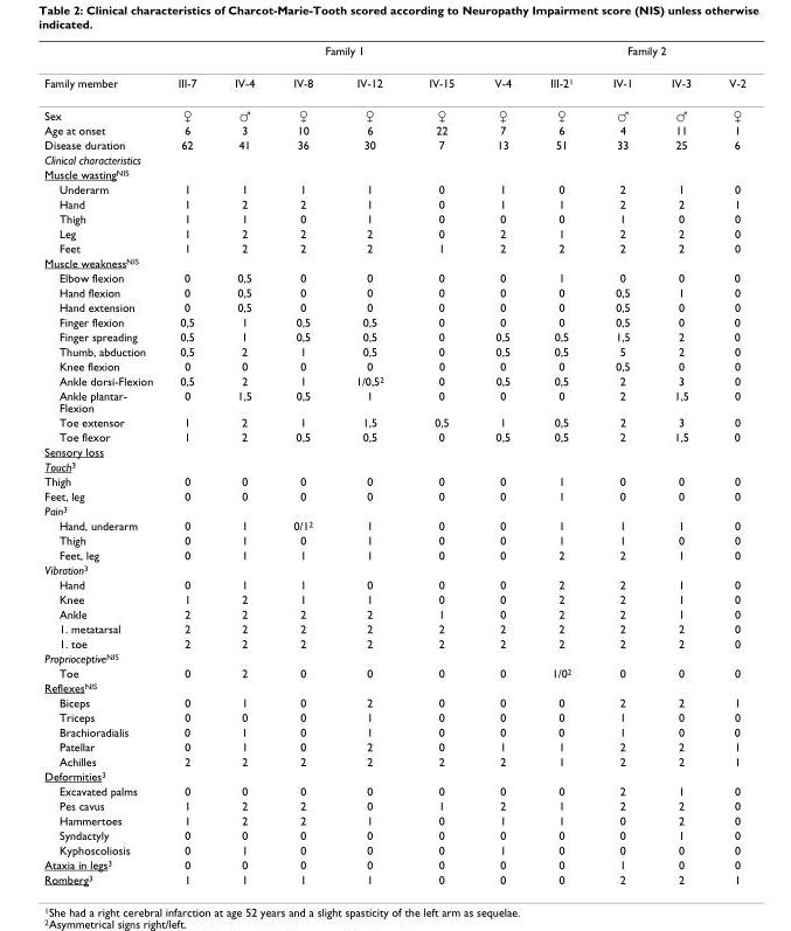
<table><thead><tr><td rowspan="2">Family member</td><td colspan="6">Family 1</td><td colspan="4">Family 2</td></tr><tr><td>III-7</td><td>IV-4</td><td>IV-8</td><td>IV-12</td><td>IV-15</td><td>V-4</td><td>III-21</td><td>IV-1</td><td>IV-3</td><td>V-2</td></tr></thead><tbody><tr><td>Sex</td><td>♀</td><td>♂</td><td>♀</td><td>♀</td><td>♀</td><td>♀</td><td>♀</td><td>♂</td><td>♂</td><td>♀</td></tr><tr><td>Age at onset</td><td>6</td><td>3</td><td>10</td><td>6</td><td>22</td><td>7</td><td>6</td><td>4</td><td>11</td><td>1</td></tr><tr><td>Disease duration</td><td>62</td><td>41</td><td>36</td><td>30</td><td>7</td><td>13</td><td>51</td><td>33</td><td>25</td><td>6</td></tr><tr><td colspan="11">Clinical characteristics</td></tr><tr><td colspan="11">Muscle wasting<sup>NIS</sup></td></tr><tr><td>Underarm</td><td>1</td><td>1</td><td>1</td><td>1</td><td>0</td><td>1</td><td>0</td><td>2</td><td>1</td><td>0</td></tr><tr><td>Hand</td><td>1</td><td>2</td><td>2</td><td>1</td><td>0</td><td>1</td><td>1</td><td>2</td><td>2</td><td>1</td></tr><tr><td>Thigh</td><td>1</td><td>1</td><td>0</td><td>1</td><td>0</td><td>0</td><td>0</td><td>1</td><td>0</td><td>0</td></tr><tr><td>Leg</td><td>1</td><td>2</td><td>2</td><td>2</td><td>0</td><td>2</td><td>1</td><td>2</td><td>2</td><td>0</td></tr><tr><td>Feet</td><td>1</td><td>2</td><td>2</td><td>2</td><td>1</td><td>2</td><td>2</td><td>2</td><td>2</td><td>0</td></tr><tr><td colspan="11">Muscle weakness<sup>NIS</sup></td></tr><tr><td>Elbow flexion</td><td>0</td><td>0,5</td><td>0</td><td>0</td><td>0</td><td>0</td><td>1</td><td>0</td><td>0</td><td>0</td></tr><tr><td>Hand flexion</td><td>0</td><td>0,5</td><td>0</td><td>0</td><td>0</td><td>0</td><td>0</td><td>0,5</td><td>1</td><td>0</td></tr><tr><td>Hand extension</td><td>0</td><td>0,5</td><td>0</td><td>0</td><td>0</td><td>0</td><td>0</td><td>0,5</td><td>0</td><td>0</td></tr><tr><td>Finger flexion</td><td>0,5</td><td>1</td><td>0,5</td><td>0,5</td><td>0</td><td>0</td><td>0</td><td>0,5</td><td>0</td><td>0</td></tr><tr><td>Finger spreading</td><td>0,5</td><td>1</td><td>0,5</td><td>0,5</td><td>0</td><td>0,5</td><td>0,5</td><td>1,5</td><td>2</td><td>0</td></tr><tr><td>Thumb, abduction</td><td>0,5</td><td>2</td><td>1</td><td>0,5</td><td>0</td><td>0,5</td><td>0,5</td><td>5</td><td>2</td><td>0</td></tr><tr><td>Knee flexion</td><td>0</td><td>0</td><td>0</td><td>0</td><td>0</td><td>0</td><td>0</td><td>0,5</td><td>0</td><td>0</td></tr><tr><td>Ankle dorsi-Flexion</td><td>0,5</td><td>2</td><td>1</td><td>1/0,5<sup>2</sup></td><td>0</td><td>0,5</td><td>0,5</td><td>2</td><td>3</td><td>0</td></tr><tr><td>Ankle plantar- Flexion</td><td>0</td><td>1,5</td><td>0,5</td><td>1</td><td>0</td><td>0</td><td>0</td><td>2</td><td>1,5</td><td>0</td></tr><tr><td>Toe extensor</td><td>1</td><td>2</td><td>1</td><td>1,5</td><td>0,5</td><td>1</td><td>0,5</td><td>2</td><td>3</td><td>0</td></tr><tr><td>Toe flexor</td><td>1</td><td>2</td><td>0,5</td><td>0,5</td><td>0</td><td>0,5</td><td>0,5</td><td>2</td><td>1,5</td><td>0</td></tr><tr><td colspan="11">Sensory loss</td></tr><tr><td colspan="11">Touch<sup>3</sup></td></tr><tr><td>Thigh</td><td>0</td><td>0</td><td>0</td><td>0</td><td>0</td><td>0</td><td>1</td><td>0</td><td>0</td><td>0</td></tr><tr><td>Feet, leg</td><td>0</td><td>0</td><td>0</td><td>0</td><td>0</td><td>0</td><td>1</td><td>0</td><td>0</td><td>0</td></tr><tr><td colspan="11">Pain<sup>3</sup></td></tr><tr><td>Hand, underarm</td><td>0</td><td>1</td><td>0/1<sup>2</sup></td><td>1</td><td>0</td><td>0</td><td>1</td><td>1</td><td>1</td><td>0</td></tr><tr><td>Thigh</td><td>0</td><td>1</td><td>0</td><td>1</td><td>0</td><td>0</td><td>1</td><td>1</td><td>0</td><td>0</td></tr><tr><td>Feet, leg</td><td>0</td><td>1</td><td>1</td><td>1</td><td>0</td><td>0</td><td>2</td><td>2</td><td>1</td><td>0</td></tr><tr><td colspan="11">Vibration<sup>3</sup></td></tr><tr><td>Hand</td><td>0</td><td>1</td><td>1</td><td>0</td><td>0</td><td>0</td><td>2</td><td>2</td><td>1</td><td>0</td></tr><tr><td>Knee</td><td>1</td><td>2</td><td>1</td><td>1</td><td>0</td><td>0</td><td>2</td><td>2</td><td>1</td><td>0</td></tr><tr><td>Ankle</td><td>2</td><td>2</td><td>2</td><td>2</td><td>1</td><td>0</td><td>2</td><td>2</td><td>1</td><td>0</td></tr><tr><td>1. metatarsal</td><td>2</td><td>2</td><td>2</td><td>2</td><td>2</td><td>2</td><td>2</td><td>2</td><td>2</td><td>0</td></tr><tr><td>1. toe</td><td>2</td><td>2</td><td>2</td><td>2</td><td>2</td><td>2</td><td>2</td><td>2</td><td>2</td><td>0</td></tr><tr><td colspan="11">Proprioceptive<sup>NIS</sup></td></tr><tr><td>Toe</td><td>0</td><td>2</td><td>0</td><td>0</td><td>0</td><td>0</td><td>1/0<sup>2</sup></td><td>0</td><td>0</td><td>0</td></tr><tr><td colspan="11">Reflexes<sup>NIS</sup></td></tr><tr><td>Biceps</td><td>0</td><td>1</td><td>0</td><td>2</td><td>0</td><td>0</td><td>0</td><td>2</td><td>2</td><td>1</td></tr><tr><td>Triceps</td><td>0</td><td>0</td><td>0</td><td>1</td><td>0</td><td>0</td><td>0</td><td>1</td><td>0</td><td>0</td></tr><tr><td>Brachioradialis</td><td>0</td><td>1</td><td>0</td><td>1</td><td>0</td><td>0</td><td>0</td><td>1</td><td>0</td><td>0</td></tr><tr><td>Patellar</td><td>0</td><td>1</td><td>0</td><td>2</td><td>0</td><td>1</td><td>1</td><td>2</td><td>2</td><td>1</td></tr><tr><td>Achilles</td><td>2</td><td>2</td><td>2</td><td>2</td><td>2</td><td>2</td><td>1</td><td>2</td><td>2</td><td>1</td></tr><tr><td colspan="11">Deformities<sup>3</sup></td></tr><tr><td>Excavated palms</td><td>0</td><td>0</td><td>0</td><td>0</td><td>0</td><td>0</td><td>0</td><td>2</td><td>1</td><td>0</td></tr><tr><td>Pes cavus</td><td>1</td><td>2</td><td>2</td><td>0</td><td>1</td><td>2</td><td>1</td><td>2</td><td>2</td><td>0</td></tr><tr><td>Hammertoes</td><td>1</td><td>2</td><td>2</td><td>1</td><td>0</td><td>1</td><td>1</td><td>0</td><td>2</td><td>0</td></tr><tr><td>Syndactyly</td><td>0</td><td>0</td><td>0</td><td>0</td><td>0</td><td>0</td><td>0</td><td>0</td><td>1</td><td>0</td></tr><tr><td>Kyphoscoliosis</td><td>0</td><td>1</td><td>0</td><td>0</td><td>0</td><td>1</td><td>0</td><td>0</td><td>0</td><td>0</td></tr><tr><td>Ataxia in legs<sup>3</sup></td><td>0</td><td>0</td><td>0</td><td>0</td><td>0</td><td>0</td><td>0</td><td>1</td><td>0</td><td>0</td></tr><tr><td>Romberg<sup>3</sup></td><td>1</td><td>1</td><td>1</td><td>1</td><td>0</td><td>0</td><td>0</td><td>2</td><td>2</td><td>1</td></tr></tbody></table>